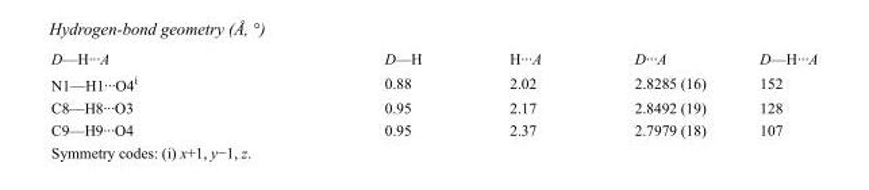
<table><tbody><tr><td>D—H···A</td><td>D—H</td><td>H···A</td><td>D···A</td><td>D—H···A</td></tr><tr><td>N1—H1···O4<sup>i</sup></td><td>0.88</td><td>2.02</td><td>2.8285 (16)</td><td>152</td></tr><tr><td>C8—H8···O3</td><td>0.95</td><td>2.17</td><td>2.8492 (19)</td><td>128</td></tr><tr><td>C9—H9···O4</td><td>0.95</td><td>2.37</td><td>2.7979 (18)</td><td>107</td></tr></tbody></table>